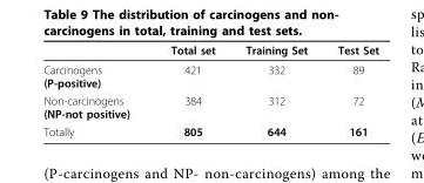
<table><thead><tr><td></td><td>Total set</td><td>Training Set</td><td>Test Set</td></tr></thead><tbody><tr><td>Carcinogens (P-positive)</td><td>421</td><td>332</td><td>89</td></tr><tr><td>Non-carcinogens (NP-not positive)</td><td>384</td><td>312</td><td>72</td></tr><tr><td>Totally</td><td>805</td><td>644</td><td>161</td></tr></tbody></table>